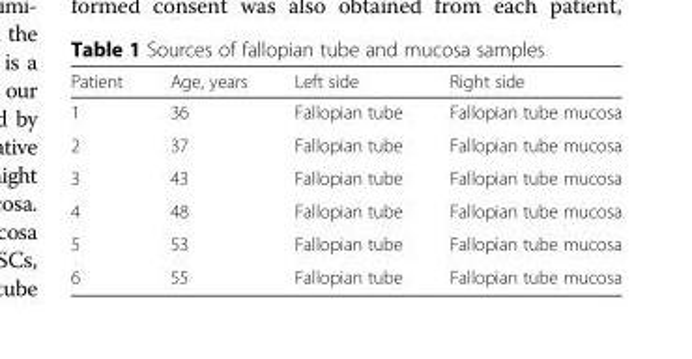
<table><thead><tr><td>Patient</td><td>Age, years</td><td>Left side</td><td>Right side</td></tr></thead><tbody><tr><td>1</td><td>36</td><td>Fallopian tube</td><td>Fallopian tube mucosa</td></tr><tr><td>2</td><td>37</td><td>Fallopian tube</td><td>Fallopian tube mucosa</td></tr><tr><td>3</td><td>43</td><td>Fallopian tube</td><td>Fallopian tube mucosa</td></tr><tr><td>4</td><td>48</td><td>Fallopian tube</td><td>Fallopian tube mucosa</td></tr><tr><td>5</td><td>53</td><td>Fallopian tube</td><td>Fallopian tube mucosa</td></tr><tr><td>6</td><td>55</td><td>Fallopian tube</td><td>Fallopian tube mucosa</td></tr></tbody></table>